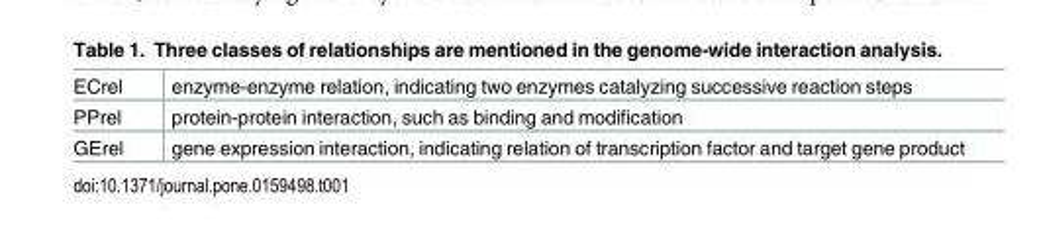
<table><tbody><tr><td>ECrel</td><td>enzyme-enzyme relation, indicating two enzymes catalyzing successive reaction steps</td></tr><tr><td>PPrel</td><td>protein-protein interaction, such as binding and modification</td></tr><tr><td>GErel</td><td>gene expression interaction, indicating relation of transcription factor and target gene product</td></tr></tbody></table>